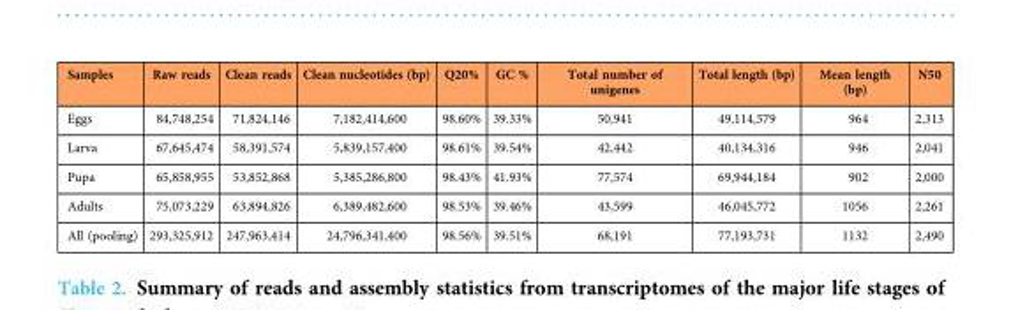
<table><thead><tr><td>Samples</td><td>Raw reads</td><td>Clean reads</td><td>Clean nucleotides (bp)</td><td>Q20%</td><td>GC %</td><td>Total number of unigenes</td><td>Total length (bp)</td><td>Mean length (bp)</td><td>N50</td></tr></thead><tbody><tr><td>Eggs</td><td>84,748,254</td><td>71,824,146</td><td>7,182,414,600</td><td>98.60%</td><td>39.33%</td><td>50,941</td><td>49,114,579</td><td>964</td><td>2,313</td></tr><tr><td>Larva</td><td>67,645,474</td><td>58,391,574</td><td>5,839,157,400</td><td>98.61%</td><td>39.54%</td><td>42,442</td><td>40,134,316</td><td>946</td><td>2,041</td></tr><tr><td>Pupa</td><td>65,858,955</td><td>53,852,868</td><td>5,385,286,800</td><td>98.43%</td><td>41.93%</td><td>77,574</td><td>69,944,184</td><td>902</td><td>2,000</td></tr><tr><td>Adults</td><td>75,073,229</td><td>63,894,826</td><td>6,389,482,600</td><td>98.53%</td><td>39.46%</td><td>43,599</td><td>46,045,772</td><td>1056</td><td>2,261</td></tr><tr><td>All (pooling)</td><td>293,325,912</td><td>247,963,414</td><td>24,796,341,400</td><td>98.56%</td><td>39.51%</td><td>68,191</td><td>77,193,731</td><td>1132</td><td>2,490</td></tr></tbody></table>